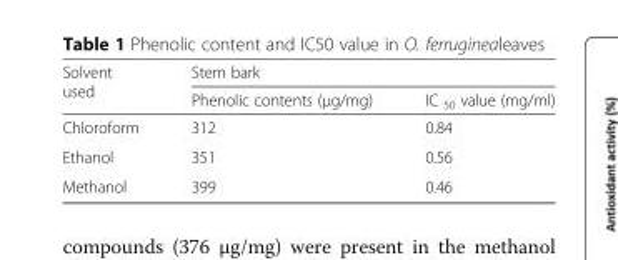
<table><thead><tr><td rowspan="2">Solvent used</td><td colspan="2">Stem bark</td></tr><tr><td>Phenolic contents (μg/mg)</td><td>IC <sub>50</sub> value (mg/ml)</td></tr></thead><tbody><tr><td>Chloroform</td><td>312</td><td>0.84</td></tr><tr><td>Ethanol</td><td>351</td><td>0.56</td></tr><tr><td>Methanol</td><td>399</td><td>0.46</td></tr></tbody></table>